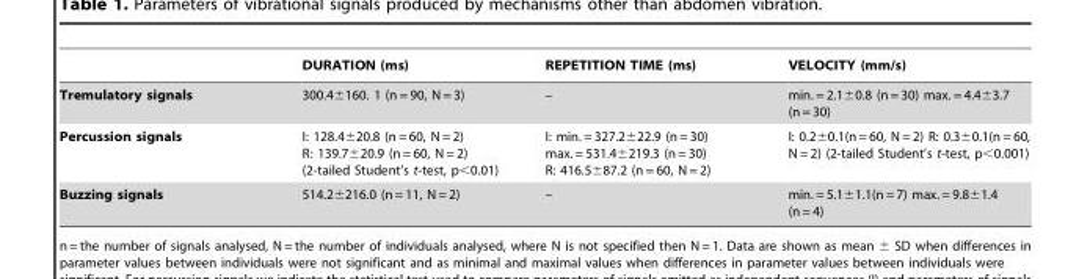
<table><thead><tr><td></td><td>DURATION (ms)</td><td>REPETITION TIME (ms)</td><td>VELOCITY (mm/s)</td></tr></thead><tbody><tr><td>Tremulatory signals</td><td>300.4±160. 1 (n = 90, N = 3)</td><td>–</td><td>min. = 2.1±0.8 (n = 30) max. = 4.4±3.7 (n = 30)</td></tr><tr><td>Percussion signals</td><td>I: 128.4±20.8 (n = 60, N = 2) R: 139.7±20.9 (n = 60, N = 2) (2-tailed Student’s t-test, p&lt;0.01)</td><td>I: min. = 327.2±22.9 (n = 30) max. = 531.4±219.3 (n = 30) R: 416.5±87.2 (n = 60, N = 2)</td><td>I: 0.2±0.1(n = 60, N = 2) R: 0.3±0.1(n = 60, N = 2) (2-tailed Student’s t-test, p&lt;0.001)</td></tr><tr><td>Buzzing signals</td><td>514.2±216.0 (n = 11, N = 2)</td><td>–</td><td>min. = 5.1±1.1(n = 7) max. = 9.8±1.4 (n = 4)</td></tr></tbody></table>